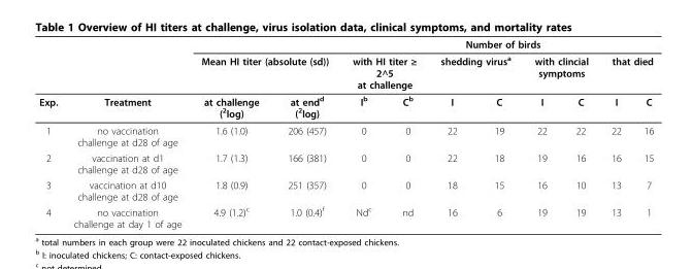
<table><thead><tr><td rowspan="3">Exp.</td><td rowspan="3">Treatment</td><td></td><td></td><td colspan="8">Number of birds</td></tr><tr><td colspan="2">Mean HI titer (absolute (sd))</td><td colspan="2">with HI titer ≥ 2^5 at challenge</td><td colspan="2">shedding virus<sup>a</sup></td><td colspan="2">with clincial symptoms</td><td colspan="2">that died</td></tr><tr><td>at challenge (<sup>2</sup>log)</td><td>at end<sup>d</sup> (<sup>2</sup>log)</td><td>I<sup>b</sup></td><td>C<sup>b</sup></td><td>I</td><td>C</td><td>I</td><td>C</td><td>I</td><td>C</td></tr></thead><tbody><tr><td>1</td><td>no vaccination challenge at d28 of age</td><td>1.6 (1.0)</td><td>206 (457)</td><td>0</td><td>0</td><td>22</td><td>19</td><td>22</td><td>22</td><td>22</td><td>16</td></tr><tr><td>2</td><td>vaccination at d1 challenge at d28 of age</td><td>1.7 (1.3)</td><td>166 (381)</td><td>0</td><td>0</td><td>22</td><td>18</td><td>19</td><td>16</td><td>16</td><td>15</td></tr><tr><td>3</td><td>vaccination at d10 challenge at d28 of age</td><td>1.8 (0.9)</td><td>251 (357)</td><td>0</td><td>0</td><td>18</td><td>15</td><td>16</td><td>10</td><td>13</td><td>7</td></tr><tr><td>4</td><td>no vaccination challenge at day 1 of age</td><td>4.9 (1.2)<sup>c</sup></td><td>1.0 (0.4)<sup>f</sup></td><td>Nd<sup>c</sup></td><td>nd</td><td>16</td><td>6</td><td>19</td><td>19</td><td>13</td><td>1</td></tr></tbody></table>